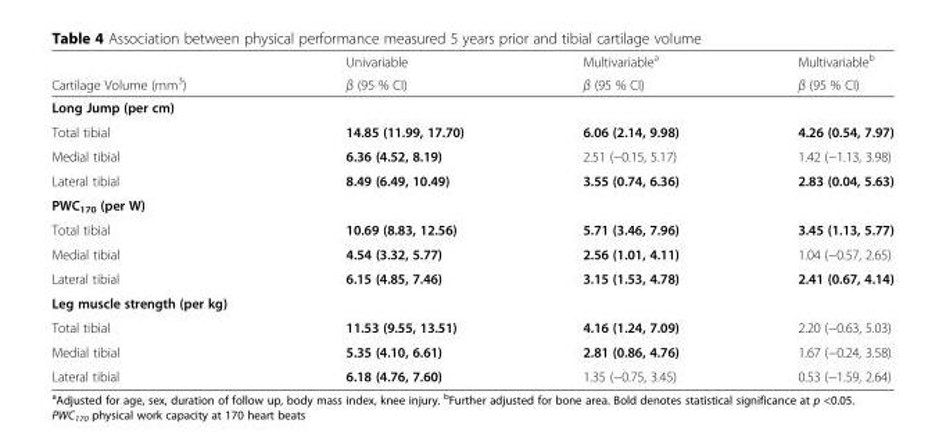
<table><thead><tr><td rowspan="2">Cartilage Volume (mm<sup>3</sup>)</td><td rowspan="2">Univariable β (95 % CI)</td><td rowspan="2">Multivariable<sup>a</sup> β (95 % CI)</td><td rowspan="2">Multivariable<sup>b</sup> β (95 % CI)</td></tr><tr></tr></thead><tbody><tr><td colspan="4">Long Jump (per cm)</td></tr><tr><td>Total tibial</td><td>14.85 (11.99, 17.70)</td><td>6.06 (2.14, 9.98)</td><td>4.26 (0.54, 7.97)</td></tr><tr><td>Medial tibial</td><td>6.36 (4.52, 8.19)</td><td>2.51 (−0.15, 5.17)</td><td>1.42 (−1.13, 3.98)</td></tr><tr><td>Lateral tibial</td><td>8.49 (6.49, 10.49)</td><td>3.55 (0.74, 6.36)</td><td>2.83 (0.04, 5.63)</td></tr><tr><td colspan="4">PWC<sub>170</sub> (per W)</td></tr><tr><td>Total tibial</td><td>10.69 (8.83, 12.56)</td><td>5.71 (3.46, 7.96)</td><td>3.45 (1.13, 5.77)</td></tr><tr><td>Medial tibial</td><td>4.54 (3.32, 5.77)</td><td>2.56 (1.01, 4.11)</td><td>1.04 (−0.57, 2.65)</td></tr><tr><td>Lateral tibial</td><td>6.15 (4.85, 7.46)</td><td>3.15 (1.53, 4.78)</td><td>2.41 (0.67, 4.14)</td></tr><tr><td colspan="4">Leg muscle strength (per kg)</td></tr><tr><td>Total tibial</td><td>11.53 (9.55, 13.51)</td><td>4.16 (1.24, 7.09)</td><td>2.20 (−0.63, 5.03)</td></tr><tr><td>Medial tibial</td><td>5.35 (4.10, 6.61)</td><td>2.81 (0.86, 4.76)</td><td>1.67 (−0.24, 3.58)</td></tr><tr><td>Lateral tibial</td><td>6.18 (4.76, 7.60)</td><td>1.35 (−0.75, 3.45)</td><td>0.53 (−1.59, 2.64)</td></tr></tbody></table>